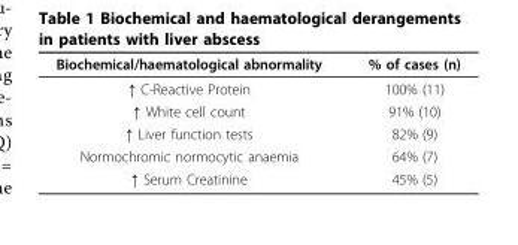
<table><thead><tr><td>Biochemical/haematological abnormality</td><td>% of cases (n)</td></tr></thead><tbody><tr><td>↑ C-Reactive Protein</td><td>100% (11)</td></tr><tr><td>↑ White cell count</td><td>91% (10)</td></tr><tr><td>↑ Liver function tests</td><td>82% (9)</td></tr><tr><td>Normochromic normocytic anaemia</td><td>64% (7)</td></tr><tr><td>↑ Serum Creatinine</td><td>45% (5)</td></tr></tbody></table>